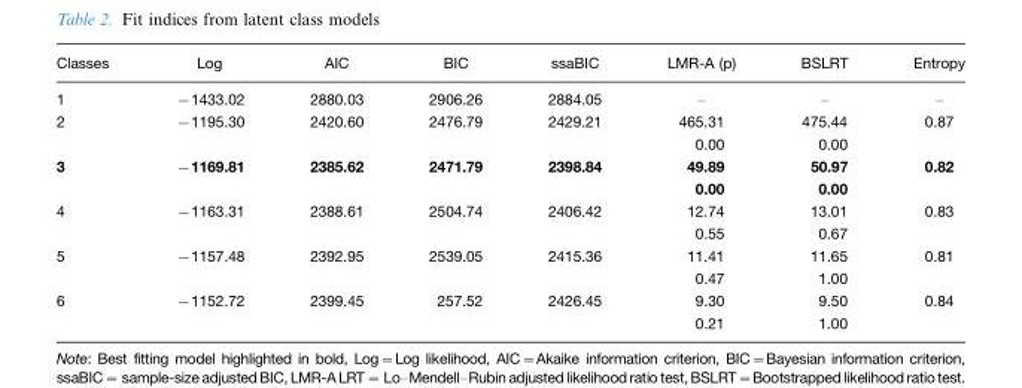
<table><thead><tr><td>Classes</td><td>Log</td><td>AIC</td><td>BIC</td><td>ssaBIC</td><td>LMR-A (p)</td><td>BSLRT</td><td>Entropy</td></tr></thead><tbody><tr><td>1</td><td>−1433.02</td><td>2880.03</td><td>2906.26</td><td>2884.05</td><td>–</td><td>–</td><td>–</td></tr><tr><td>2</td><td>−1195.30</td><td>2420.60</td><td>2476.79</td><td>2429.21</td><td>465.31 0.00</td><td>475.44 0.00</td><td>0.87</td></tr><tr><td>3</td><td>−1169.81</td><td>2385.62</td><td>2471.79</td><td>2398.84</td><td>49.89 0.00</td><td>50.97 0.00</td><td>0.82</td></tr><tr><td>4</td><td>−1163.31</td><td>2388.61</td><td>2504.74</td><td>2406.42</td><td>12.74 0.55</td><td>13.01 0.67</td><td>0.83</td></tr><tr><td>5</td><td>−1157.48</td><td>2392.95</td><td>2539.05</td><td>2415.36</td><td>11.41 0.47</td><td>11.65 1.00</td><td>0.81</td></tr><tr><td>6</td><td>−1152.72</td><td>2399.45</td><td>257.52</td><td>2426.45</td><td>9.30 0.21</td><td>9.50 1.00</td><td>0.84</td></tr></tbody></table>